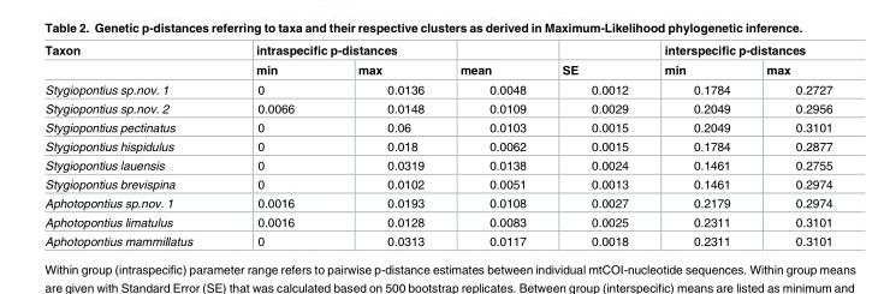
<table><thead><tr><td rowspan="2">Taxon</td><td colspan="2">intraspecific p-distances</td><td rowspan="2">mean</td><td rowspan="2">SE</td><td colspan="2">interspecific p-distances</td></tr><tr><td>min</td><td>max</td><td>min</td><td>max</td></tr></thead><tbody><tr><td>Stygiopontius sp.nov. 1</td><td>0</td><td>0.0136</td><td>0.0048</td><td>0.0012</td><td>0.1784</td><td>0.2727</td></tr><tr><td>Stygiopontius sp.nov. 2</td><td>0.0066</td><td>0.0148</td><td>0.0109</td><td>0.0029</td><td>0.2049</td><td>0.2956</td></tr><tr><td>Stygiopontius pectinatus</td><td>0</td><td>0.06</td><td>0.0103</td><td>0.0015</td><td>0.2049</td><td>0.3101</td></tr><tr><td>Stygiopontius hispidulus</td><td>0</td><td>0.018</td><td>0.0062</td><td>0.0015</td><td>0.1784</td><td>0.2877</td></tr><tr><td>Stygiopontius lauensis</td><td>0</td><td>0.0319</td><td>0.0138</td><td>0.0024</td><td>0.1461</td><td>0.2755</td></tr><tr><td>Stygiopontius brevispina</td><td>0</td><td>0.0102</td><td>0.0051</td><td>0.0013</td><td>0.1461</td><td>0.2974</td></tr><tr><td>Aphotopontius sp.nov. 1</td><td>0.0016</td><td>0.0193</td><td>0.0108</td><td>0.0027</td><td>0.2179</td><td>0.2974</td></tr><tr><td>Aphotopontius limatulus</td><td>0.0016</td><td>0.0128</td><td>0.0083</td><td>0.0025</td><td>0.2311</td><td>0.3101</td></tr><tr><td>Aphotopontius mammillatus</td><td>0</td><td>0.0313</td><td>0.0117</td><td>0.0018</td><td>0.2311</td><td>0.3101</td></tr></tbody></table>